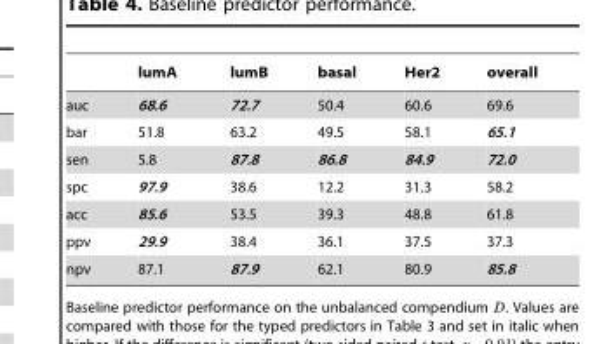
<table><thead><tr><td></td><td>lumA</td><td>lumB</td><td>basal</td><td>Her2</td><td>overall</td></tr></thead><tbody><tr><td>auc</td><td>68.6</td><td>72.7</td><td>50.4</td><td>60.6</td><td>69.6</td></tr><tr><td>bar</td><td>51.8</td><td>63.2</td><td>49.5</td><td>58.1</td><td>65.1</td></tr><tr><td>sen</td><td>5.8</td><td>87.8</td><td>86.8</td><td>84.9</td><td>72.0</td></tr><tr><td>spc</td><td>97.9</td><td>38.6</td><td>12.2</td><td>31.3</td><td>58.2</td></tr><tr><td>acc</td><td>85.6</td><td>53.5</td><td>39.3</td><td>48.8</td><td>61.8</td></tr><tr><td>ppv</td><td>29.9</td><td>38.4</td><td>36.1</td><td>37.5</td><td>37.3</td></tr><tr><td>npv</td><td>87.1</td><td>87.9</td><td>62.1</td><td>80.9</td><td>85.8</td></tr></tbody></table>